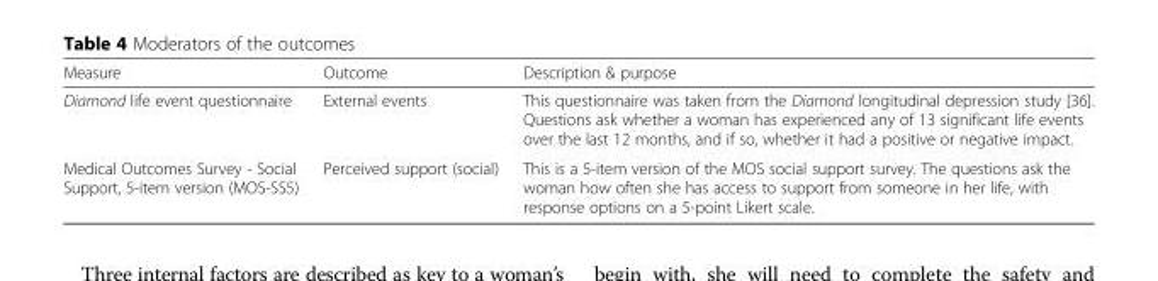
<table><thead><tr><td>Measure</td><td>Outcome</td><td>Description &amp; purpose</td></tr></thead><tbody><tr><td>Diamond life event questionnaire</td><td>External events</td><td>This questionnaire was taken from the Diamond longitudinal depression study [36]. Questions ask whether a woman has experienced any of 13 significant life events over the last 12 months, and if so, whether it had a positive or negative impact.</td></tr><tr><td>Medical Outcomes Survey - Social Support, 5-item version (MOS-SS5)</td><td>Perceived support (social)</td><td>This is a 5-item version of the MOS social support survey. The questions ask the woman how often she has access to support from someone in her life, with response options on a 5-point Likert scale.</td></tr></tbody></table>